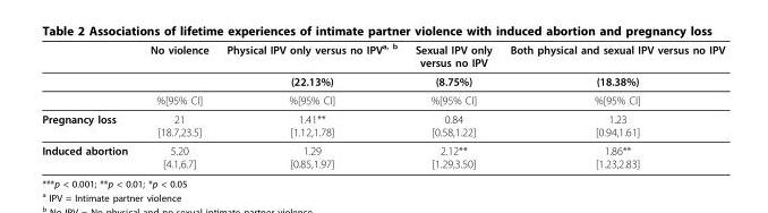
<table><thead><tr><td></td><td>No violence</td><td>Physical IPV only versus no IPV<sup>a, b</sup></td><td>Sexual IPV only versus no IPV</td><td>Both physical and sexual IPV versus no IPV</td></tr></thead><tbody><tr><td></td><td></td><td>(22.13%)</td><td>(8.75%)</td><td>(18.38%)</td></tr><tr><td></td><td>%[95% CI]</td><td>%[95% CI]</td><td>%[95% CI]</td><td>%[95% CI]</td></tr><tr><td>Pregnancy loss</td><td>21 [18.7,23.5]</td><td>1.41** [1.12,1.78]</td><td>0.84 [0.58,1.22]</td><td>1.23 [0.94,1.61]</td></tr><tr><td>Induced abortion</td><td>5.20 [4.1,6.7]</td><td>1.29 [0.85,1.97]</td><td>2.12** [1.29,3.50]</td><td>1.86** [1.23,2.83]</td></tr></tbody></table>